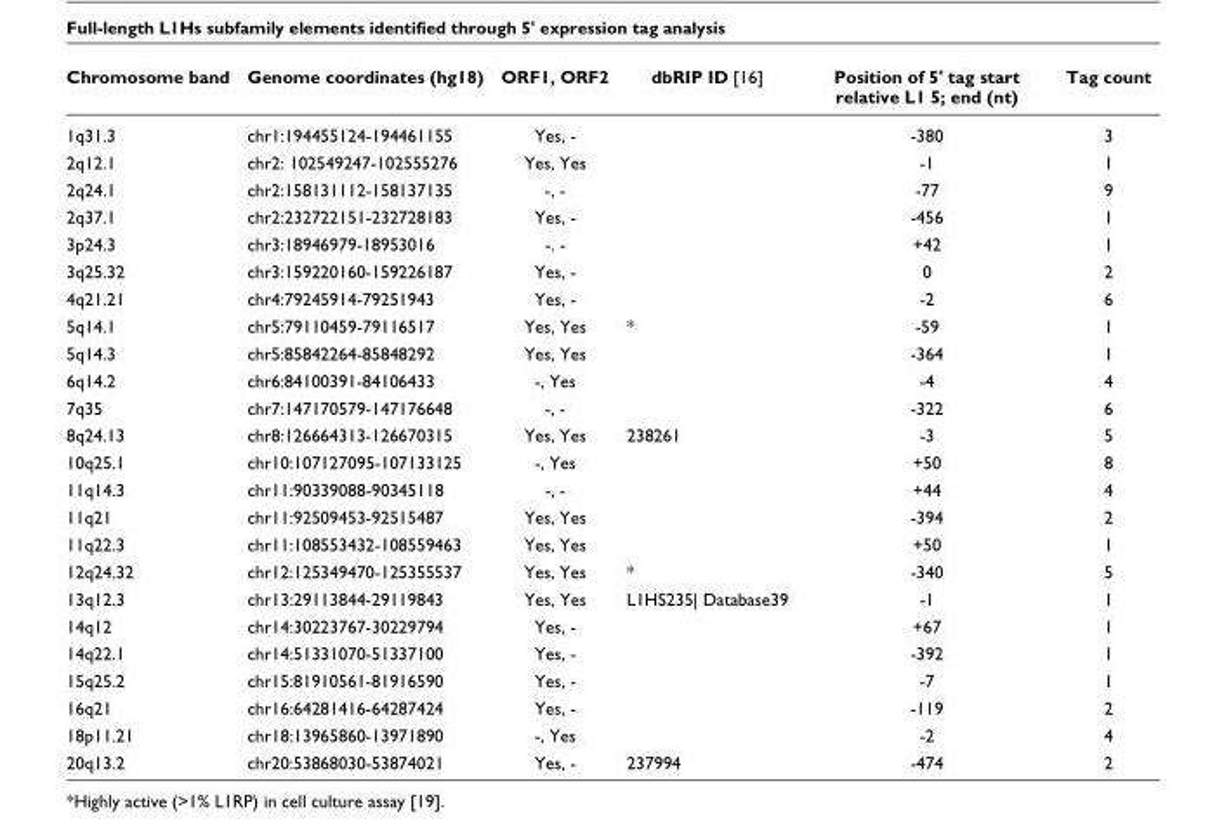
<table><thead><tr><td>Chromosome band</td><td>Genome coordinates (hg18)</td><td>ORF1, ORF2</td><td>dbRIP ID [16]</td><td>Position of 5&#x27; tag start relative L1 5; end (nt)</td><td>Tag count</td></tr></thead><tbody><tr><td>1q31.3</td><td>chr1:194455124-194461155</td><td>Yes, -</td><td></td><td>-380</td><td>3</td></tr><tr><td>2q12.1</td><td>chr2: 102549247-102555276</td><td>Yes, Yes</td><td></td><td>-1</td><td>1</td></tr><tr><td>2q24.1</td><td>chr2:158131112-158137135</td><td>-, -</td><td></td><td>-77</td><td>9</td></tr><tr><td>2q37.1</td><td>chr2:232722151-232728183</td><td>Yes, -</td><td></td><td>-456</td><td>1</td></tr><tr><td>3p24.3</td><td>chr3:18946979-18953016</td><td>-. -</td><td></td><td>+42</td><td>1</td></tr><tr><td>3q25.32</td><td>chr3:159220160-159226187</td><td>Yes, -</td><td></td><td>0</td><td>2</td></tr><tr><td>4q21.21</td><td>chr4:79245914-79251943</td><td>Yes, -</td><td></td><td>-2</td><td>6</td></tr><tr><td>5q14.1</td><td>chr5:79110459-79116517</td><td>Yes, Yes</td><td>*</td><td>-59</td><td>1</td></tr><tr><td>5q14.3</td><td>chr5:85842264-85848292</td><td>Yes, Yes</td><td></td><td>-364</td><td>1</td></tr><tr><td>6q14.2</td><td>chr6:84100391-84106433</td><td>-, Yes</td><td></td><td>-4</td><td>4</td></tr><tr><td>7q35</td><td>chr7:147170579-147176648</td><td>-, -</td><td></td><td>-322</td><td>6</td></tr><tr><td>8q24.13</td><td>chr8:126664313-126670315</td><td>Yes, Yes</td><td>238261</td><td>-3</td><td>5</td></tr><tr><td>10q25.1</td><td>chr10:107127095-107133125</td><td>-, Yes</td><td></td><td>+50</td><td>8</td></tr><tr><td>11q14.3</td><td>chr11:90339088-90345118</td><td>-, -</td><td></td><td>+44</td><td>4</td></tr><tr><td>11q21</td><td>chr11:92509453-92515487</td><td>Yes, Yes</td><td></td><td>-394</td><td>2</td></tr><tr><td>11q22.3</td><td>chr11:108553432-108559463</td><td>Yes, Yes</td><td></td><td>+50</td><td>1</td></tr><tr><td>12q24.32</td><td>chr12:125349470-125355537</td><td>Yes, Yes</td><td>*</td><td>-340</td><td>5</td></tr><tr><td>13q12.3</td><td>chr13:29113844-29119843</td><td>Yes, Yes</td><td>L1HS235| Database39</td><td>-1</td><td>1</td></tr><tr><td>14q12</td><td>chr14:30223767-30229794</td><td>Yes, -</td><td></td><td>+67</td><td>1</td></tr><tr><td>14q22.1</td><td>chr14:51331070-51337100</td><td>Yes, -</td><td></td><td>-392</td><td>1</td></tr><tr><td>15q25.2</td><td>chr15:81910561-81916590</td><td>Yes, -</td><td></td><td>-7</td><td>1</td></tr><tr><td>16q21</td><td>chr16:64281416-64287424</td><td>Yes, -</td><td></td><td>-119</td><td>2</td></tr><tr><td>18p11.21</td><td>chr18:13965860-13971890</td><td>-, Yes</td><td></td><td>-2</td><td>4</td></tr><tr><td>20q13.2</td><td>chr20:53868030-53874021</td><td>Yes, -</td><td>237994</td><td>-474</td><td>2</td></tr></tbody></table>